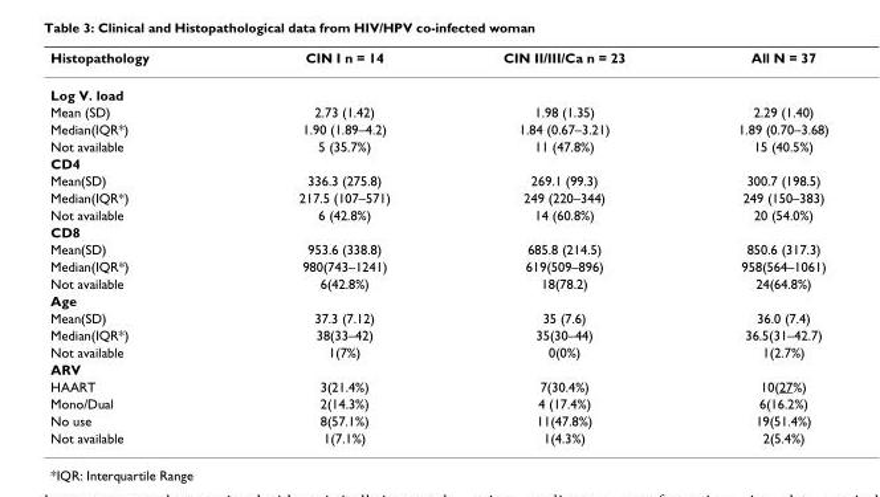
<table><thead><tr><td>Histopathology</td><td>CIN I n = 14</td><td>CIN II/III/Ca n = 23</td><td>All N = 37</td></tr></thead><tbody><tr><td colspan="4">Log V. load</td></tr><tr><td>Mean (SD)</td><td>2.73 (1.42)</td><td>1.98 (1.35)</td><td>2.29 (1.40)</td></tr><tr><td>Median(IQR*)</td><td>1.90 (1.89–4.2)</td><td>1.84 (0.67–3.21)</td><td>1.89 (0.70–3.68)</td></tr><tr><td>Not available</td><td>5 (35.7%)</td><td>11 (47.8%)</td><td>15 (40.5%)</td></tr><tr><td colspan="4">CD4</td></tr><tr><td>Mean(SD)</td><td>336.3 (275.8)</td><td>269.1 (99.3)</td><td>300.7 (198.5)</td></tr><tr><td>Median(IQR*)</td><td>217.5 (107–571)</td><td>249 (220–344)</td><td>249 (150–383)</td></tr><tr><td>Not available</td><td>6 (42.8%)</td><td>14 (60.8%)</td><td>20 (54.0%)</td></tr><tr><td colspan="4">CD8</td></tr><tr><td>Mean(SD)</td><td>953.6 (338.8)</td><td>685.8 (214.5)</td><td>850.6 (317.3)</td></tr><tr><td>Median(IQR*)</td><td>980(743–1241)</td><td>619(509–896)</td><td>958(564–1061)</td></tr><tr><td>Not available</td><td>6(42.8%)</td><td>18(78.2)</td><td>24(64.8%)</td></tr><tr><td colspan="4">Age</td></tr><tr><td>Mean(SD)</td><td>37.3 (7.12)</td><td>35 (7.6)</td><td>36.0 (7.4)</td></tr><tr><td>Median(IQR*)</td><td>38(33–42)</td><td>35(30–44)</td><td>36.5(31–42.7)</td></tr><tr><td>Not available</td><td>1(7%)</td><td>0(0%)</td><td>1(2.7%)</td></tr><tr><td colspan="4">ARV</td></tr><tr><td>HAART</td><td>3(21.4%)</td><td>7(30.4%)</td><td>10(27%)</td></tr><tr><td>Mono/Dual</td><td>2(14.3%)</td><td>4 (17.4%)</td><td>6(16.2%)</td></tr><tr><td>No use</td><td>8(57.1%)</td><td>11(47.8%)</td><td>19(51.4%)</td></tr><tr><td>Not available</td><td>1(7.1%)</td><td>1(4.3%)</td><td>2(5.4%)</td></tr></tbody></table>